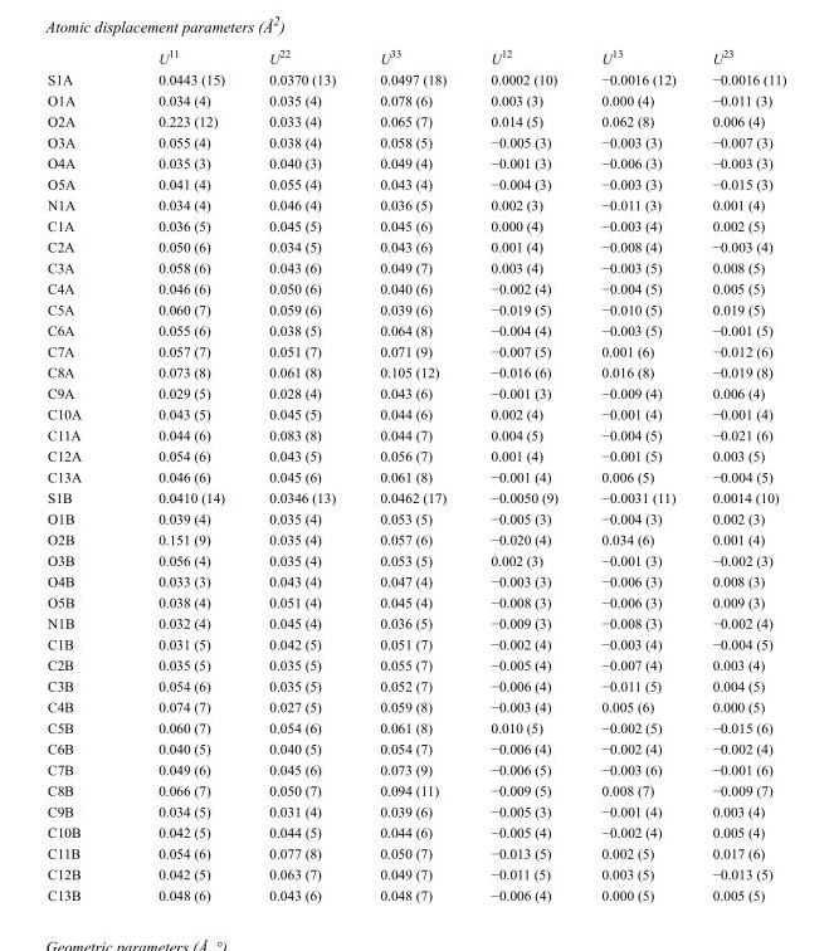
<table><thead><tr><td></td><td>U<sup>11</sup></td><td>U<sup>22</sup></td><td>U<sup>33</sup></td><td>U<sup>12</sup></td><td>U<sup>13</sup></td><td>U<sup>23</sup></td></tr></thead><tbody><tr><td>S1A</td><td>0.0443 (15)</td><td>0.0370 (13)</td><td>0.0497 (18)</td><td>0.0002 (10)</td><td>−0.0016 (12)</td><td>−0.0016 (11)</td></tr><tr><td>O1A</td><td>0.034 (4)</td><td>0.035 (4)</td><td>0.078 (6)</td><td>0.003 (3)</td><td>0.000 (4)</td><td>−0.011 (3)</td></tr><tr><td>O2A</td><td>0.223 (12)</td><td>0.033 (4)</td><td>0.065 (7)</td><td>0.014 (5)</td><td>0.062 (8)</td><td>0.006 (4)</td></tr><tr><td>O3A</td><td>0.055 (4)</td><td>0.038 (4)</td><td>0.058 (5)</td><td>−0.005 (3)</td><td>−0.003 (3)</td><td>−0.007 (3)</td></tr><tr><td>O4A</td><td>0.035 (3)</td><td>0.040 (3)</td><td>0.049 (4)</td><td>−0.001 (3)</td><td>−0.006 (3)</td><td>−0.003 (3)</td></tr><tr><td>O5A</td><td>0.041 (4)</td><td>0.055 (4)</td><td>0.043 (4)</td><td>−0.004 (3)</td><td>−0.003 (3)</td><td>−0.015 (3)</td></tr><tr><td>N1A</td><td>0.034 (4)</td><td>0.046 (4)</td><td>0.036 (5)</td><td>0.002 (3)</td><td>−0.011 (3)</td><td>0.001 (4)</td></tr><tr><td>C1A</td><td>0.036 (5)</td><td>0.045 (5)</td><td>0.045 (6)</td><td>0.000 (4)</td><td>−0.003 (4)</td><td>0.002 (5)</td></tr><tr><td>C2A</td><td>0.050 (6)</td><td>0.034 (5)</td><td>0.043 (6)</td><td>0.001 (4)</td><td>−0.008 (4)</td><td>−0.003 (4)</td></tr><tr><td>C3A</td><td>0.058 (6)</td><td>0.043 (6)</td><td>0.049 (7)</td><td>0.003 (4)</td><td>−0.003 (5)</td><td>0.008 (5)</td></tr><tr><td>C4A</td><td>0.046 (6)</td><td>0.050 (6)</td><td>0.040 (6)</td><td>−0.002 (4)</td><td>−0.004 (5)</td><td>0.005 (5)</td></tr><tr><td>C5A</td><td>0.060 (7)</td><td>0.059 (6)</td><td>0.039 (6)</td><td>−0.019 (5)</td><td>−0.010 (5)</td><td>0.019 (5)</td></tr><tr><td>C6A</td><td>0.055 (6)</td><td>0.038 (5)</td><td>0.064 (8)</td><td>−0.004 (4)</td><td>−0.003 (5)</td><td>−0.001 (5)</td></tr><tr><td>C7A</td><td>0.057 (7)</td><td>0.051 (7)</td><td>0.071 (9)</td><td>−0.007 (5)</td><td>0.001 (6)</td><td>−0.012 (6)</td></tr><tr><td>C8A</td><td>0.073 (8)</td><td>0.061 (8)</td><td>0.105 (12)</td><td>−0.016 (6)</td><td>0.016 (8)</td><td>−0.019 (8)</td></tr><tr><td>C9A</td><td>0.029 (5)</td><td>0.028 (4)</td><td>0.043 (6)</td><td>−0.001 (3)</td><td>−0.009 (4)</td><td>0.006 (4)</td></tr><tr><td>C10A</td><td>0.043 (5)</td><td>0.045 (5)</td><td>0.044 (6)</td><td>0.002 (4)</td><td>−0.001 (4)</td><td>−0.001 (4)</td></tr><tr><td>C11A</td><td>0.044 (6)</td><td>0.083 (8)</td><td>0.044 (7)</td><td>0.004 (5)</td><td>−0.004 (5)</td><td>−0.021 (6)</td></tr><tr><td>C12A</td><td>0.054 (6)</td><td>0.043 (5)</td><td>0.056 (7)</td><td>0.001 (4)</td><td>−0.001 (5)</td><td>0.003 (5)</td></tr><tr><td>C13A</td><td>0.046 (6)</td><td>0.045 (6)</td><td>0.061 (8)</td><td>−0.001 (4)</td><td>0.006 (5)</td><td>−0.004 (5)</td></tr><tr><td>S1B</td><td>0.0410 (14)</td><td>0.0346 (13)</td><td>0.0462 (17)</td><td>−0.0050 (9)</td><td>−0.0031 (11)</td><td>0.0014 (10)</td></tr><tr><td>O1B</td><td>0.039 (4)</td><td>0.035 (4)</td><td>0.053 (5)</td><td>−0.005 (3)</td><td>−0.004 (3)</td><td>0.002 (3)</td></tr><tr><td>O2B</td><td>0.151 (9)</td><td>0.035 (4)</td><td>0.057 (6)</td><td>−0.020 (4)</td><td>0.034 (6)</td><td>0.001 (4)</td></tr><tr><td>O3B</td><td>0.056 (4)</td><td>0.035 (4)</td><td>0.053 (5)</td><td>0.002 (3)</td><td>−0.001 (3)</td><td>−0.002 (3)</td></tr><tr><td>O4B</td><td>0.033 (3)</td><td>0.043 (4)</td><td>0.047 (4)</td><td>−0.003 (3)</td><td>−0.006 (3)</td><td>0.008 (3)</td></tr><tr><td>O5B</td><td>0.038 (4)</td><td>0.051 (4)</td><td>0.045 (4)</td><td>−0.008 (3)</td><td>−0.006 (3)</td><td>0.009 (3)</td></tr><tr><td>N1B</td><td>0.032 (4)</td><td>0.045 (4)</td><td>0.036 (5)</td><td>−0.009 (3)</td><td>−0.008 (3)</td><td>−0.002 (4)</td></tr><tr><td>C1B</td><td>0.031 (5)</td><td>0.042 (5)</td><td>0.051 (7)</td><td>−0.002 (4)</td><td>−0.003 (4)</td><td>−0.004 (5)</td></tr><tr><td>C2B</td><td>0.035 (5)</td><td>0.035 (5)</td><td>0.055 (7)</td><td>−0.005 (4)</td><td>−0.007 (4)</td><td>0.003 (4)</td></tr><tr><td>C3B</td><td>0.054 (6)</td><td>0.035 (5)</td><td>0.052 (7)</td><td>−0.006 (4)</td><td>−0.011 (5)</td><td>0.004 (5)</td></tr><tr><td>C4B</td><td>0.074 (7)</td><td>0.027 (5)</td><td>0.059 (8)</td><td>−0.003 (4)</td><td>0.005 (6)</td><td>0.000 (5)</td></tr><tr><td>C5B</td><td>0.060 (7)</td><td>0.054 (6)</td><td>0.061 (8)</td><td>0.010 (5)</td><td>−0.002 (5)</td><td>−0.015 (6)</td></tr><tr><td>C6B</td><td>0.040 (5)</td><td>0.040 (5)</td><td>0.054 (7)</td><td>−0.006 (4)</td><td>−0.002 (4)</td><td>−0.002 (4)</td></tr><tr><td>C7B</td><td>0.049 (6)</td><td>0.045 (6)</td><td>0.073 (9)</td><td>−0.006 (5)</td><td>−0.003 (6)</td><td>−0.001 (6)</td></tr><tr><td>C8B</td><td>0.066 (7)</td><td>0.050 (7)</td><td>0.094 (11)</td><td>−0.009 (5)</td><td>0.008 (7)</td><td>−0.009 (7)</td></tr><tr><td>C9B</td><td>0.034 (5)</td><td>0.031 (4)</td><td>0.039 (6)</td><td>−0.005 (3)</td><td>−0.001 (4)</td><td>0.003 (4)</td></tr><tr><td>C10B</td><td>0.042 (5)</td><td>0.044 (5)</td><td>0.044 (6)</td><td>−0.005 (4)</td><td>−0.002 (4)</td><td>0.005 (4)</td></tr><tr><td>C11B</td><td>0.054 (6)</td><td>0.077 (8)</td><td>0.050 (7)</td><td>−0.013 (5)</td><td>0.002 (5)</td><td>0.017 (6)</td></tr><tr><td>C12B</td><td>0.042 (5)</td><td>0.063 (7)</td><td>0.049 (7)</td><td>−0.011 (5)</td><td>0.003 (5)</td><td>−0.013 (5)</td></tr><tr><td>C13B</td><td>0.048 (6)</td><td>0.043 (6)</td><td>0.048 (7)</td><td>−0.006 (4)</td><td>0.000 (5)</td><td>0.005 (5)</td></tr></tbody></table>